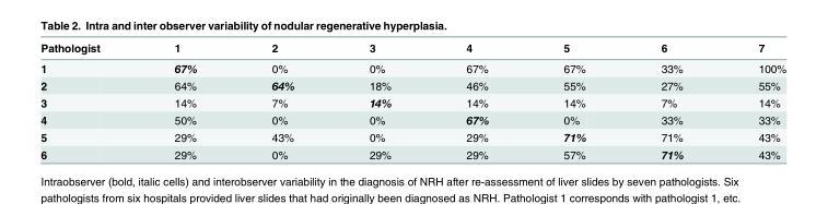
<table><thead><tr><td>Pathologist</td><td>1</td><td>2</td><td>3</td><td>4</td><td>5</td><td>6</td><td>7</td></tr></thead><tbody><tr><td>1</td><td>67%</td><td>0%</td><td>0%</td><td>67%</td><td>67%</td><td>33%</td><td>100%</td></tr><tr><td>2</td><td>64%</td><td>64%</td><td>18%</td><td>46%</td><td>55%</td><td>27%</td><td>55%</td></tr><tr><td>3</td><td>14%</td><td>7%</td><td>14%</td><td>14%</td><td>14%</td><td>7%</td><td>14%</td></tr><tr><td>4</td><td>50%</td><td>0%</td><td>0%</td><td>67%</td><td>0%</td><td>33%</td><td>33%</td></tr><tr><td>5</td><td>29%</td><td>43%</td><td>0%</td><td>29%</td><td>71%</td><td>71%</td><td>43%</td></tr><tr><td>6</td><td>29%</td><td>0%</td><td>29%</td><td>29%</td><td>57%</td><td>71%</td><td>43%</td></tr></tbody></table>